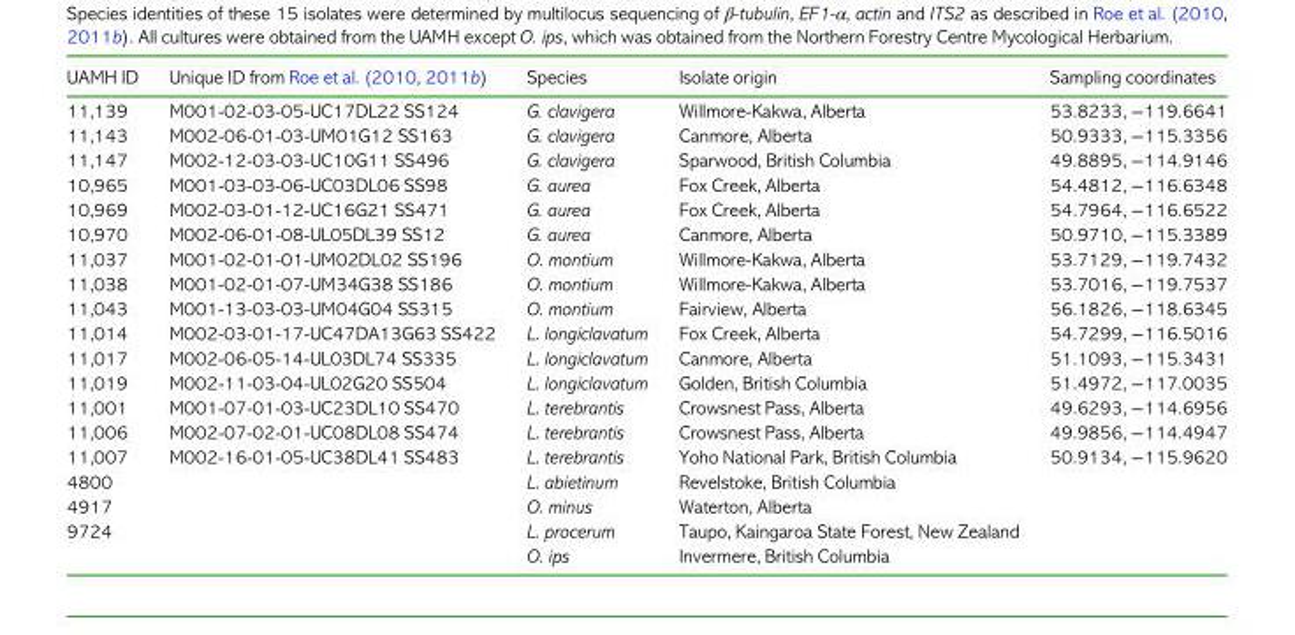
<table><thead><tr><td>UAMH ID</td><td>Unique ID from Roe et al. (2010, 2011b)</td><td>Species</td><td>Isolate origin</td><td>Sampling coordinates</td></tr></thead><tbody><tr><td>11,139</td><td>M001-02-03-05-UC17DL22 SS124</td><td>G. clavigera</td><td>Willmore-Kakwa, Alberta</td><td>53.8233, −119.6641</td></tr><tr><td>11,143</td><td>M002-06-01-03-UM01G12 SS163</td><td>G. clavigera</td><td>Canmore, Alberta</td><td>50.9333, −115.3356</td></tr><tr><td>11,147</td><td>M002-12-03-03-UC10G11 SS496</td><td>G. clavigera</td><td>Sparwood, British Columbia</td><td>49.8895, −114.9146</td></tr><tr><td>10,965</td><td>M001-03-03-06-UC03DL06 SS98</td><td>G. aurea</td><td>Fox Creek, Alberta</td><td>54.4812, −116.6348</td></tr><tr><td>10,969</td><td>M002-03-01-12-UC16G21 SS471</td><td>G. aurea</td><td>Fox Creek, Alberta</td><td>54.7964, −116.6522</td></tr><tr><td>10,970</td><td>M002-06-01-08-UL05DL39 SS12</td><td>G. aurea</td><td>Canmore, Alberta</td><td>50.9710, −115.3389</td></tr><tr><td>11,037</td><td>M001-02-01-01-UM02DL02 SS196</td><td>O. montium</td><td>Willmore-Kakwa, Alberta</td><td>53.7129, −119.7432</td></tr><tr><td>11,038</td><td>M001-02-01-07-UM34G38 SS186</td><td>O. montium</td><td>Willmore-Kakwa, Alberta</td><td>53.7016, −119.7537</td></tr><tr><td>11,043</td><td>M001-13-03-03-UM04G04 SS315</td><td>O. montium</td><td>Fairview, Alberta</td><td>56.1826, −118.6345</td></tr><tr><td>11,014</td><td>M002-03-01-17-UC47DA13G63 SS422</td><td>L. longiclavatum</td><td>Fox Creek, Alberta</td><td>54.7299, −116.5016</td></tr><tr><td>11,017</td><td>M002-06-05-14-UL03DL74 SS335</td><td>L. longiclavatum</td><td>Canmore, Alberta</td><td>51.1093, −115.3431</td></tr><tr><td>11,019</td><td>M002-11-03-04-UL02G20 SS504</td><td>L. longiclavatum</td><td>Golden, British Columbia</td><td>51.4972, −117.0035</td></tr><tr><td>11,001</td><td>M001-07-01-03-UC23DL10 SS470</td><td>L. terebrantis</td><td>Crowsnest Pass, Alberta</td><td>49.6293, −114.6956</td></tr><tr><td>11,006</td><td>M002-07-02-01-UC08DL08 SS474</td><td>L. terebrantis</td><td>Crowsnest Pass, Alberta</td><td>49.9856, −114.4947</td></tr><tr><td>11,007</td><td>M002-16-01-05-UC38DL41 SS483</td><td>L. terebrantis</td><td>Yoho National Park, British Columbia</td><td>50.9134, −115.9620</td></tr><tr><td>4800</td><td></td><td>L. abietinum</td><td>Revelstoke, British Columbia</td><td></td></tr><tr><td>4917</td><td></td><td>O. minus</td><td>Waterton, Alberta</td><td></td></tr><tr><td rowspan="2">9724</td><td></td><td>L. procerum</td><td>Taupo, Kaingaroa State Forest, New Zealand</td><td></td></tr><tr><td></td><td>O. ips</td><td>Invermere, British Columbia</td><td></td></tr></tbody></table>